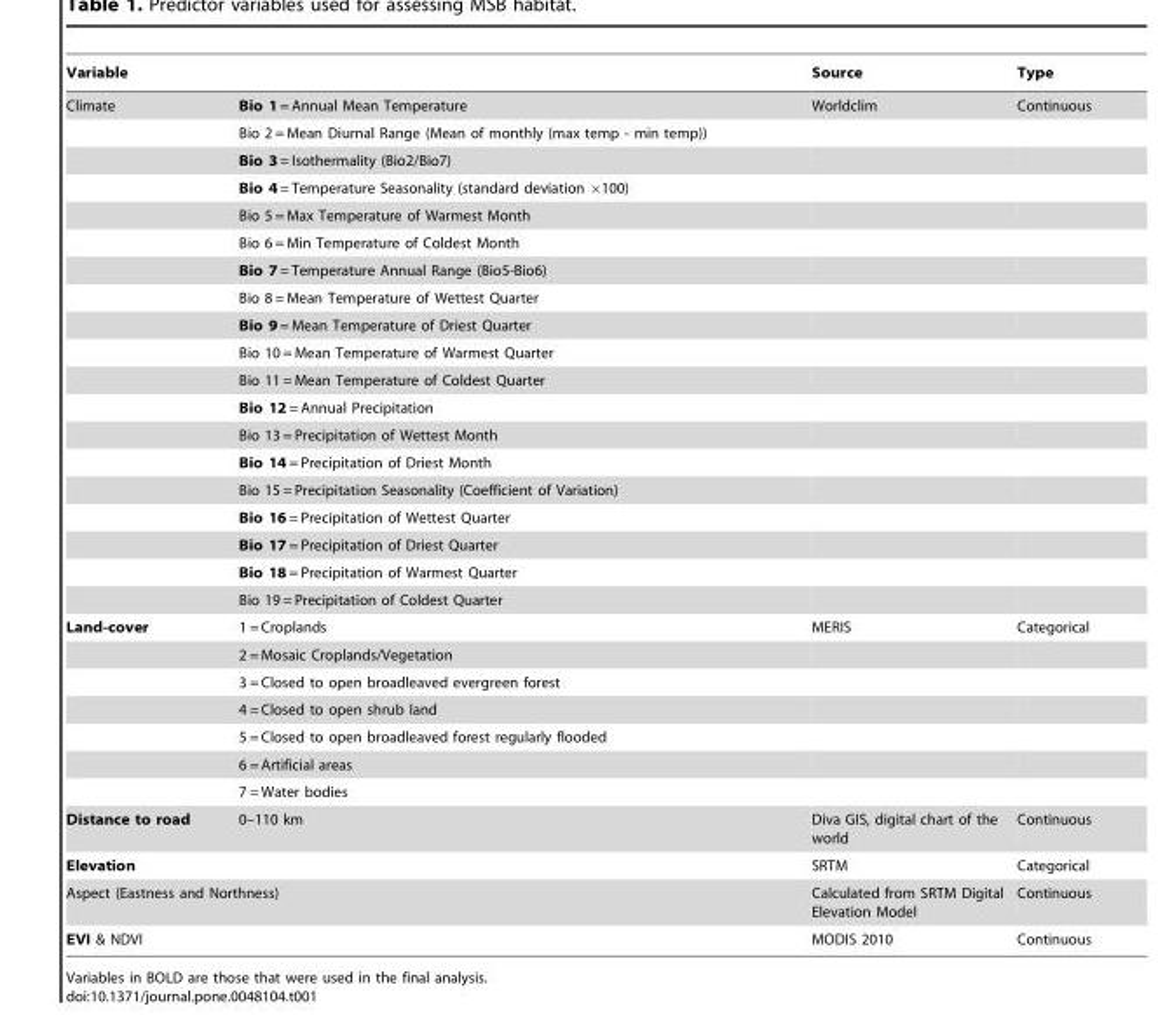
<table><thead><tr><td colspan="2">Variable</td><td rowspan="2">Source Worldclim</td><td rowspan="2">Type Continuous</td></tr><tr><td>Climate</td><td>Bio 1 = Annual Mean Temperature</td></tr></thead><tbody><tr><td></td><td>Bio 2 = Mean Diurnal Range (Mean of monthly (max temp - min temp))</td><td></td><td></td></tr><tr><td></td><td>Bio 3 = Isothermality (Bio2/Bio7)</td><td></td><td></td></tr><tr><td></td><td>Bio 4 = Temperature Seasonality (standard deviation ×100)</td><td></td><td></td></tr><tr><td></td><td>Bio 5 = Max Temperature of Warmest Month</td><td></td><td></td></tr><tr><td></td><td>Bio 6 = Min Temperature of Coldest Month</td><td></td><td></td></tr><tr><td></td><td>Bio 7 = Temperature Annual Range (Bio5-Bio6)</td><td></td><td></td></tr><tr><td></td><td>Bio 8 = Mean Temperature of Wettest Quarter</td><td></td><td></td></tr><tr><td></td><td>Bio 9 = Mean Temperature of Driest Quarter</td><td></td><td></td></tr><tr><td></td><td>Bio 10 = Mean Temperature of Warmest Quarter</td><td></td><td></td></tr><tr><td></td><td>Bio 11 = Mean Temperature of Coldest Quarter</td><td></td><td></td></tr><tr><td></td><td>Bio 12 = Annual Precipitation</td><td></td><td></td></tr><tr><td></td><td>Bio 13 = Precipitation of Wettest Month</td><td></td><td></td></tr><tr><td></td><td>Bio 14 = Precipitation of Driest Month</td><td></td><td></td></tr><tr><td></td><td>Bio 15 = Precipitation Seasonality (Coefficient of Variation)</td><td></td><td></td></tr><tr><td></td><td>Bio 16 = Precipitation of Wettest Quarter</td><td></td><td></td></tr><tr><td></td><td>Bio 17 = Precipitation of Driest Quarter</td><td></td><td></td></tr><tr><td></td><td>Bio 18 = Precipitation of Warmest Quarter</td><td></td><td></td></tr><tr><td></td><td>Bio 19 = Precipitation of Coldest Quarter</td><td></td><td></td></tr><tr><td rowspan="7">Land-cover</td><td>1 = Croplands</td><td>MERIS</td><td>Categorical</td></tr><tr><td>2 = Mosaic Croplands/Vegetation</td><td></td><td></td></tr><tr><td>3 = Closed to open broadleaved evergreen forest</td><td></td><td></td></tr><tr><td>4 = Closed to open shrub land</td><td></td><td></td></tr><tr><td>5 = Closed to open broadleaved forest regularly flooded</td><td></td><td></td></tr><tr><td>6 = Artificial areas</td><td></td><td></td></tr><tr><td>7 = Water bodies</td><td></td><td></td></tr><tr><td>Distance to road</td><td>0–110 km</td><td>Diva GIS, digital chart of the world</td><td>Continuous</td></tr><tr><td colspan="2">Elevation</td><td>SRTM</td><td>Categorical</td></tr><tr><td colspan="2">Aspect (Eastness and Northness)</td><td>Calculated from SRTM Digital Elevation Model</td><td>Continuous</td></tr><tr><td colspan="2">EVI &amp; NDVI</td><td>MODIS 2010</td><td>Continuous</td></tr></tbody></table>